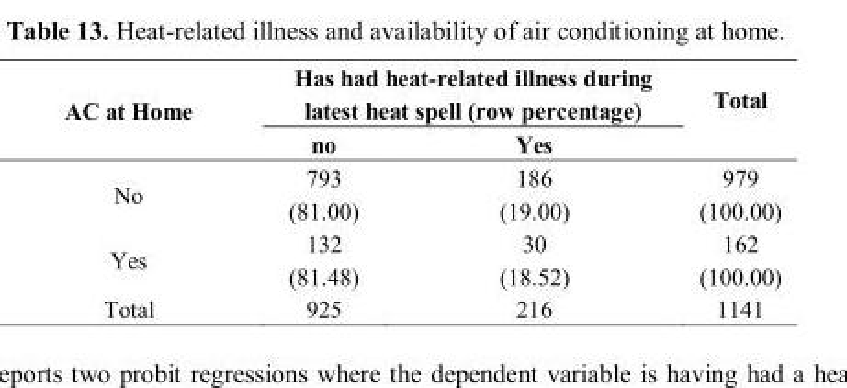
<table><thead><tr><td rowspan="2">AC at Home</td><td colspan="2">Has had heat-related illness during latest heat spell (row percentage)</td><td rowspan="2">Total</td></tr><tr><td>no</td><td>Yes</td></tr></thead><tbody><tr><td>No</td><td>793 (81.00)</td><td>186 (19.00)</td><td>979 (100.00)</td></tr><tr><td>Yes</td><td>132 (81.48)</td><td>30 (18.52)</td><td>162 (100.00)</td></tr><tr><td>Total</td><td>925</td><td>216</td><td>1141</td></tr></tbody></table>